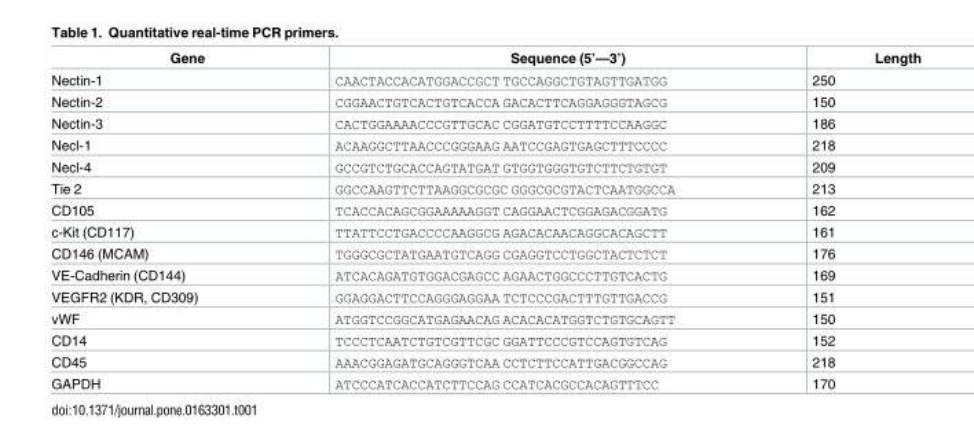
<table><thead><tr><td>Gene</td><td>Sequence (5’—3’)</td><td>Length</td></tr></thead><tbody><tr><td>Nectin-1</td><td>CAACTACCACATGGACCGCT TGCCAGGCTGTAGTTGATGG</td><td>250</td></tr><tr><td>Nectin-2</td><td>CGGAACTGTCACTGTCACCA GACACTTCAGGAGGGTAGCG</td><td>150</td></tr><tr><td>Nectin-3</td><td>CACTGGAAAACCCGTTGCAC CGGATGTCCTTTTCCAAGGC</td><td>186</td></tr><tr><td>Necl-1</td><td>ACAAGGCTTAACCCGGGAAG AATCCGAGTGAGCTTTCCCC</td><td>218</td></tr><tr><td>Necl-4</td><td>GCCGTCTGCACCAGTATGAT GTGGTGGGTGTCTTCTGTGT</td><td>209</td></tr><tr><td>Tie 2</td><td>GGCCAAGTTCTTAAGGCGCGC GGGCGCGTACTCAATGGCCA</td><td>213</td></tr><tr><td>CD105</td><td>TCACCACAGCGGAAAAAGGT CAGGAACTCGGAGACGGATG</td><td>162</td></tr><tr><td>c-Kit (CD117)</td><td>TTATTCCTGACCCCAAGGCG AGACACAACAGGCACAGCTT</td><td>161</td></tr><tr><td>CD146 (MCAM)</td><td>TGGGCGCTATGAATGTCAGG CGAGGTCCTGGCTACTCTCT</td><td>176</td></tr><tr><td>VE-Cadherin (CD144)</td><td>ATCACAGATGTGGACGAGCC AGAACTGGCCCTTGTCACTG</td><td>169</td></tr><tr><td>VEGFR2 (KDR, CD309)</td><td>GGAGGACTTCCAGGGAGGAA TCTCCCGACTTTGTTGACCG</td><td>151</td></tr><tr><td>vWF</td><td>ATGGTCCGGCATGAGAACAG ACACACATGGTCTGTGCAGTT</td><td>150</td></tr><tr><td>CD14</td><td>TCCCTCAATCTGTCGTTCGC GGATTCCCGTCCAGTGTCAG</td><td>152</td></tr><tr><td>CD45</td><td>AAACGGAGATGCAGGGTCAA CCTCTTCCATTGACGGCCAG</td><td>218</td></tr><tr><td>GAPDH</td><td>ATCCCATCACCATCTTCCAG CCATCACGCCACAGTTTCC</td><td>170</td></tr></tbody></table>